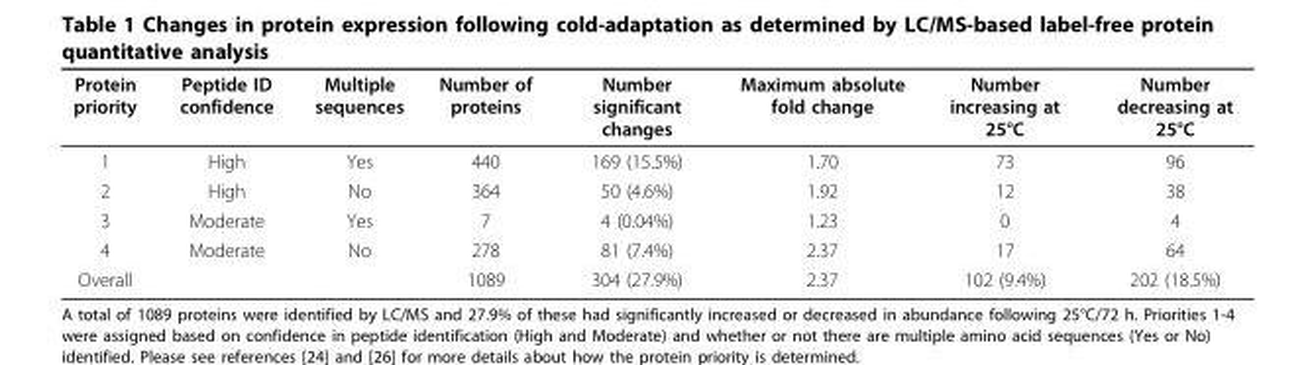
<table><thead><tr><td>Protein priority</td><td>Peptide ID confidence</td><td>Multiple sequences</td><td>Number of proteins</td><td>Number significant changes</td><td>Maximum absolute fold change</td><td>Number increasing at 25°C</td><td>Number decreasing at 25°C</td></tr></thead><tbody><tr><td>1</td><td>High</td><td>Yes</td><td>440</td><td>169 (15.5%)</td><td>1.70</td><td>73</td><td>96</td></tr><tr><td>2</td><td>High</td><td>No</td><td>364</td><td>50 (4.6%)</td><td>1.92</td><td>12</td><td>38</td></tr><tr><td>3</td><td>Moderate</td><td>Yes</td><td>7</td><td>4 (0.04%)</td><td>1.23</td><td>0</td><td>4</td></tr><tr><td>4</td><td>Moderate</td><td>No</td><td>278</td><td>81 (7.4%)</td><td>2.37</td><td>17</td><td>64</td></tr><tr><td>Overall</td><td></td><td></td><td>1089</td><td>304 (27.9%)</td><td>2.37</td><td>102 (9.4%)</td><td>202 (18.5%)</td></tr></tbody></table>